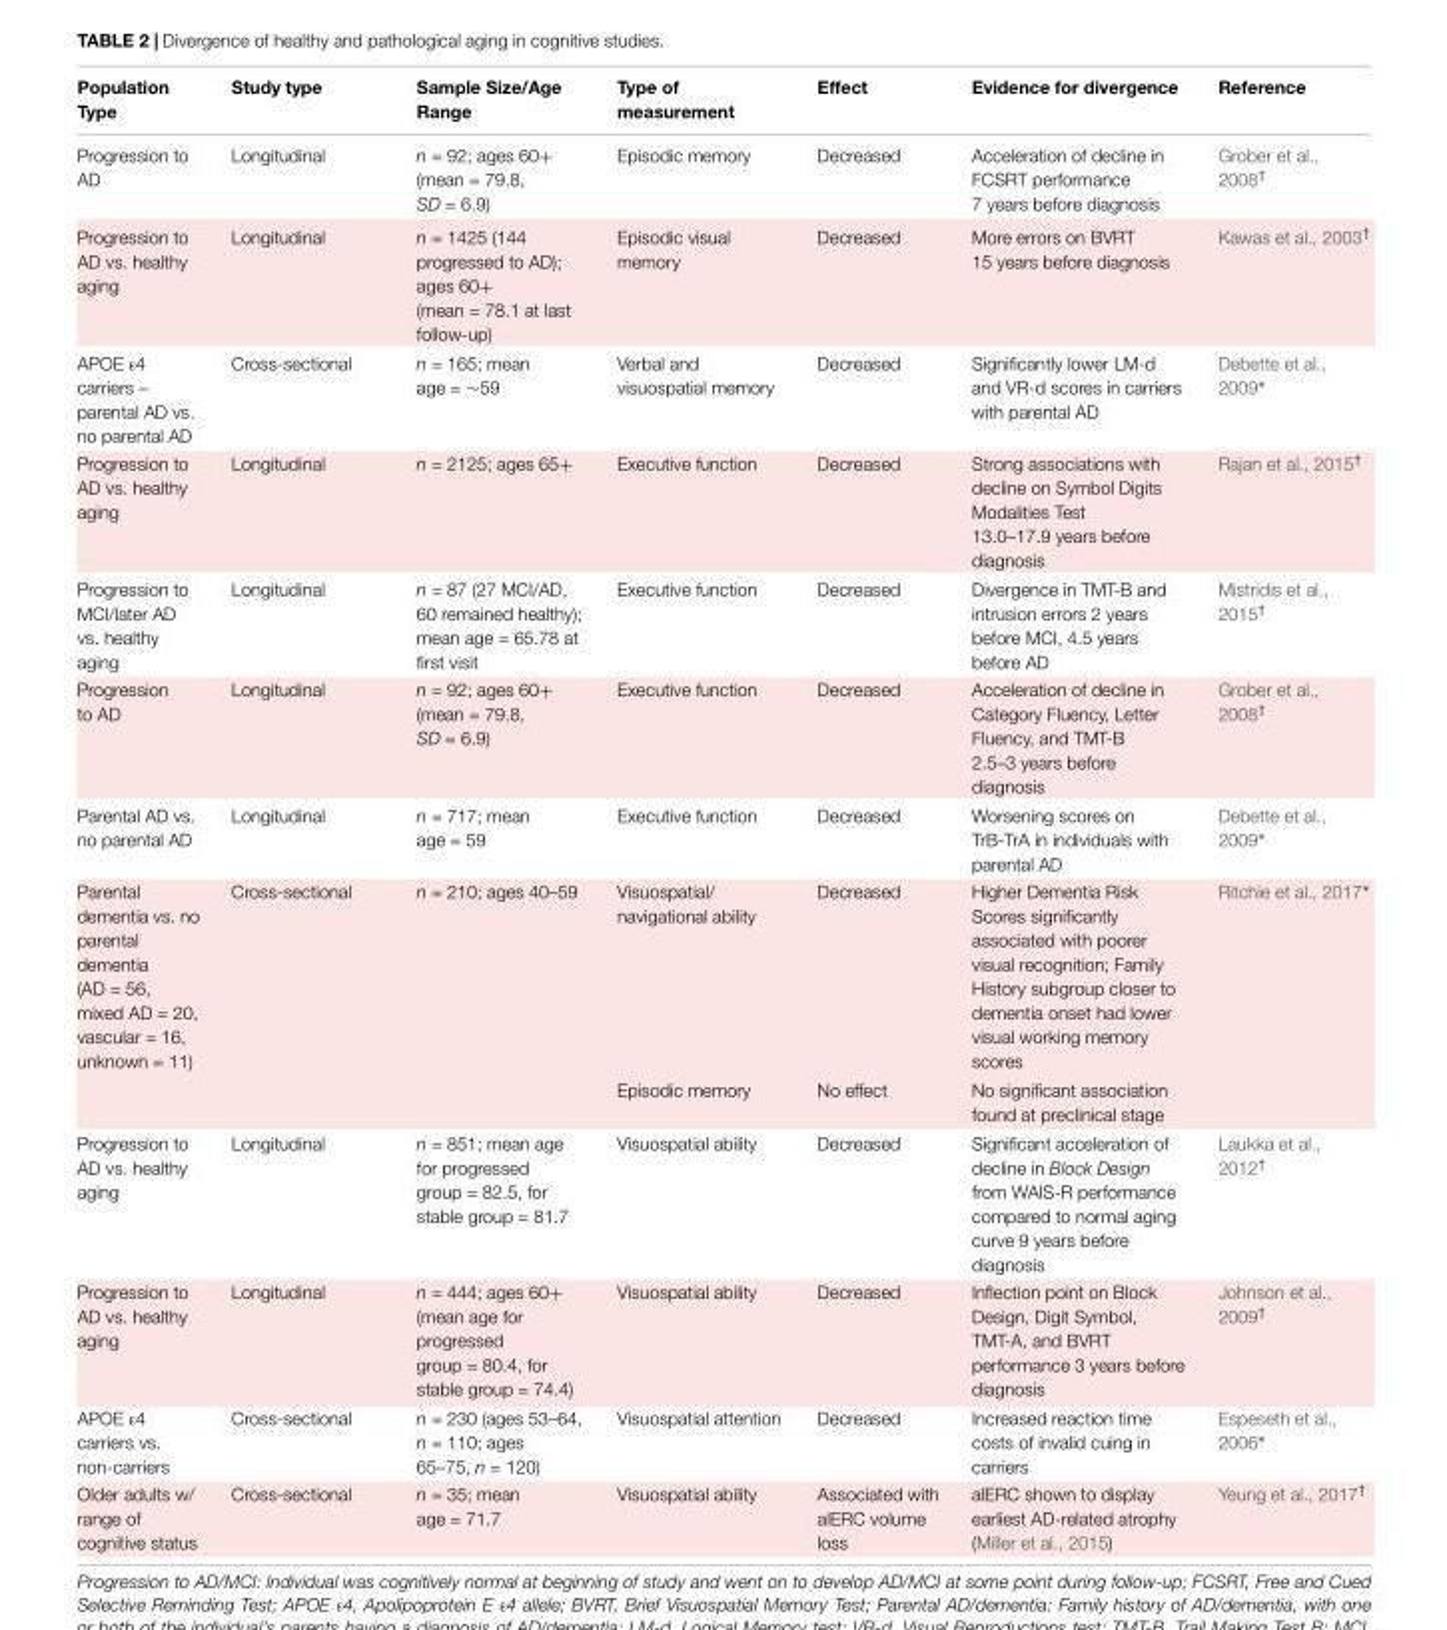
<table><thead><tr><td>Population Type</td><td>Study type</td><td>Sample Size/Age Range</td><td>Type of measurement</td><td>Effect</td><td>Evidence for divergence</td><td>Reference</td></tr></thead><tbody><tr><td>Progression to AD</td><td>Longitudinal</td><td>n = 92; ages 60+ (mean = 79.8, SD = 6.9)</td><td>Episodic memory</td><td>Decreased</td><td>Acceleration of decline in FCSRT performance 7 years before diagnosis</td><td>Grober et al., 2008<sup>†</sup></td></tr><tr><td>Progression to AD vs. healthy aging</td><td>Longitudinal</td><td>n = 1425 (144 progressed to AD); ages 60+ (mean = 78.1 at last follow-up)</td><td>Episodic visual memory</td><td>Decreased</td><td>More errors on BVRT 15 years before diagnosis</td><td>Kawas et al., 2003<sup>†</sup></td></tr><tr><td>APOE ε4 carriers – parental AD vs. no parental AD</td><td>Cross-sectional</td><td>n = 165; mean age = ∼59</td><td>Verbal and visuospatial memory</td><td>Decreased</td><td>Significantly lower LM-d and VR-d scores in carriers with parental AD</td><td>Debette et al., 2009∗</td></tr><tr><td>Progression to AD vs. healthy aging</td><td>Longitudinal</td><td>n = 2125; ages 65+</td><td>Executive function</td><td>Decreased</td><td>Strong associations with decline on Symbol Digits Modalities Test 13.0–17.9 years before diagnosis</td><td>Rajan et al., 2015<sup>†</sup></td></tr><tr><td>Progression to MCI/later AD vs. healthy aging</td><td>Longitudinal</td><td>n = 87 (27 MCI/AD, 60 remained healthy); mean age = 65.78 at first visit</td><td>Executive function</td><td>Decreased</td><td>Divergence in TMT-B and intrusion errors 2 years before MCI, 4.5 years before AD</td><td>Mistridis et al., 2015<sup>†</sup></td></tr><tr><td>Progression to AD</td><td>Longitudinal</td><td>n = 92; ages 60+ (mean = 79.8, SD = 6.9)</td><td>Executive function</td><td>Decreased</td><td>Acceleration of decline in Category Fluency, Letter Fluency, and TMT-B 2.5–3 years before diagnosis</td><td>Grober et al., 2008<sup>†</sup></td></tr><tr><td>Parental AD vs. no parental AD</td><td>Longitudinal</td><td>n = 717; mean age = 59</td><td>Executive function</td><td>Decreased</td><td>Worsening scores on TrB-TrA in individuals with parental AD</td><td>Debette et al., 2009∗</td></tr><tr><td rowspan="2">Parental dementia vs. no parental dementia (AD = 56, mixed AD = 20, vascular = 16, unknown = 11)</td><td>Cross-sectional</td><td>n = 210; ages 40–59</td><td>Visuospatial/ navigational ability</td><td>Decreased</td><td>Higher Dementia Risk Scores significantly associated with poorer visual recognition; Family History subgroup closer to dementia onset had lower visual working memory scores</td><td>Ritchie et al., 2017∗</td></tr><tr><td></td><td></td><td>Episodic memory</td><td>No effect</td><td>No significant association found at preclinical stage</td><td></td></tr><tr><td>Progression to AD vs. healthy aging</td><td>Longitudinal</td><td>n = 851; mean age for progressed group = 82.5, for stable group = 81.7</td><td>Visuospatial ability</td><td>Decreased</td><td>Significant acceleration of decline in Block Design from WAIS-R performance compared to normal aging curve 9 years before diagnosis</td><td>Laukka et al., 2012<sup>†</sup></td></tr><tr><td>Progression to AD vs. healthy aging</td><td>Longitudinal</td><td>n = 444; ages 60+ (mean age for progressed group = 80.4, for stable group = 74.4)</td><td>Visuospatial ability</td><td>Decreased</td><td>Inflection point on Block Design, Digit Symbol, TMT-A, and BVRT performance 3 years before diagnosis</td><td>Johnson et al., 2009<sup>†</sup></td></tr><tr><td>APOE ε4 carriers vs. non-carriers</td><td>Cross-sectional</td><td>n = 230 (ages 53–64, n = 110; ages 65–75, n = 120)</td><td>Visuospatial attention</td><td>Decreased</td><td>Increased reaction time costs of invalid cuing in carriers</td><td>Espeseth et al., 2006∗</td></tr><tr><td>Older adults w/ range of cognitive status</td><td>Cross-sectional</td><td>n = 35; mean age = 71.7</td><td>Visuospatial ability</td><td>Associated with alERC volume loss</td><td>alERC shown to display earliest AD-related atrophy (Miller et al., 2015)</td><td>Yeung et al., 2017<sup>†</sup></td></tr></tbody></table>